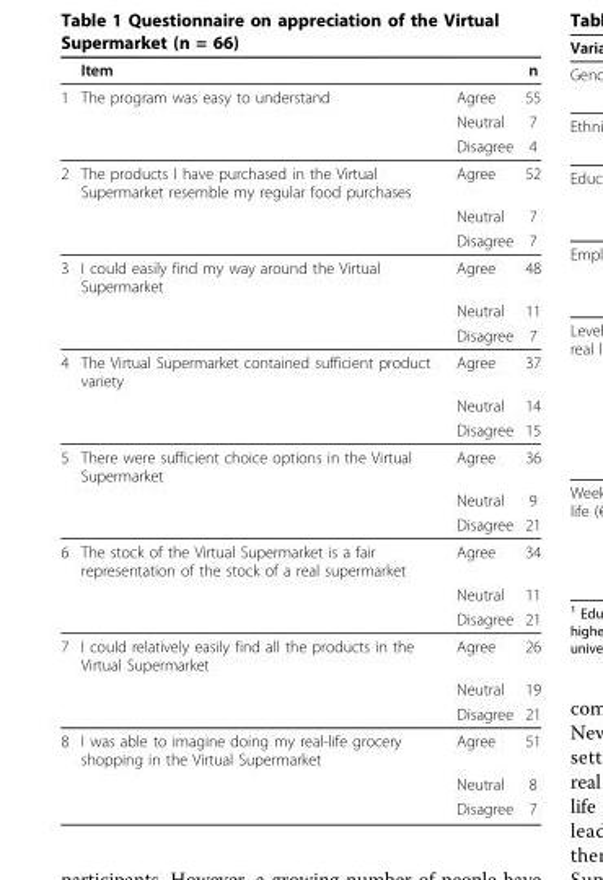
<table><thead><tr><td></td><td>Item</td><td></td><td>n</td></tr></thead><tbody><tr><td rowspan="3">1</td><td>The program was easy to understand</td><td>Agree</td><td>55</td></tr><tr><td></td><td>Neutral</td><td>7</td></tr><tr><td></td><td>Disagree</td><td>4</td></tr><tr><td rowspan="3">2</td><td>The products I have purchased in the Virtual Supermarket resemble my regular food purchases</td><td>Agree</td><td>52</td></tr><tr><td></td><td>Neutral</td><td>7</td></tr><tr><td></td><td>Disagree</td><td>7</td></tr><tr><td rowspan="3">3</td><td>I could easily find my way around the Virtual Supermarket</td><td>Agree</td><td>48</td></tr><tr><td></td><td>Neutral</td><td>11</td></tr><tr><td></td><td>Disagree</td><td>7</td></tr><tr><td rowspan="3">4</td><td>The Virtual Supermarket contained sufficient product variety</td><td>Agree</td><td>37</td></tr><tr><td></td><td>Neutral</td><td>14</td></tr><tr><td></td><td>Disagree</td><td>15</td></tr><tr><td rowspan="3">5</td><td>There were sufficient choice options in the Virtual Supermarket</td><td>Agree</td><td>36</td></tr><tr><td></td><td>Neutral</td><td>9</td></tr><tr><td></td><td>Disagree</td><td>21</td></tr><tr><td rowspan="3">6</td><td>The stock of the Virtual Supermarket is a fair representation of the stock of a real supermarket</td><td>Agree</td><td>34</td></tr><tr><td></td><td>Neutral</td><td>11</td></tr><tr><td></td><td>Disagree</td><td>21</td></tr><tr><td rowspan="3">7</td><td>I could relatively easily find all the products in the Virtual Supermarket</td><td>Agree</td><td>26</td></tr><tr><td></td><td>Neutral</td><td>19</td></tr><tr><td></td><td>Disagree</td><td>21</td></tr><tr><td rowspan="3">8</td><td>I was able to imagine doing my real-life grocery shopping in the Virtual Supermarket</td><td>Agree</td><td>51</td></tr><tr><td></td><td>Neutral</td><td>8</td></tr><tr><td></td><td>Disagree</td><td>7</td></tr></tbody></table>